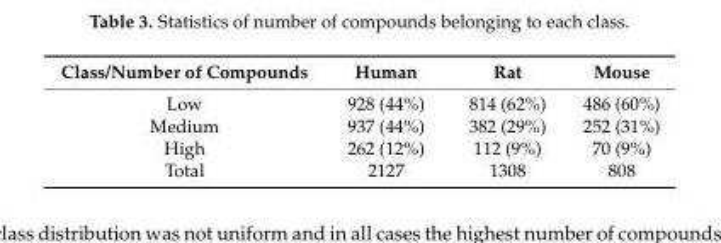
<table><thead><tr><td>Class/Number of Compounds</td><td>Human</td><td>Rat</td><td>Mouse</td></tr></thead><tbody><tr><td>Low</td><td>928 (44%)</td><td>814 (62%)</td><td>486 (60%)</td></tr><tr><td>Medium</td><td>937 (44%)</td><td>382 (29%)</td><td>252 (31%)</td></tr><tr><td>High</td><td>262 (12%)</td><td>112 (9%)</td><td>70 (9%)</td></tr><tr><td>Total</td><td>2127</td><td>1308</td><td>808</td></tr></tbody></table>